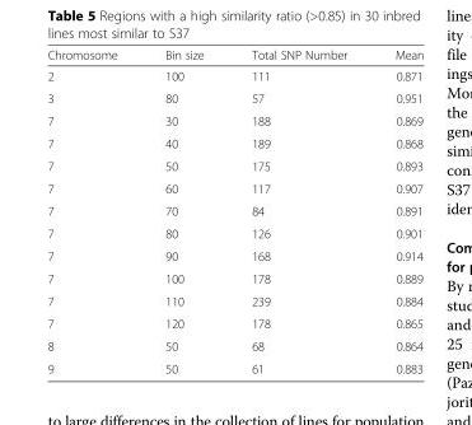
<table><thead><tr><td>Chromosome</td><td>Bin size</td><td>Total SNP Number</td><td>Mean</td></tr></thead><tbody><tr><td>2</td><td>100</td><td>111</td><td>0.871</td></tr><tr><td>3</td><td>80</td><td>57</td><td>0.951</td></tr><tr><td>7</td><td>30</td><td>188</td><td>0.869</td></tr><tr><td>7</td><td>40</td><td>189</td><td>0.868</td></tr><tr><td>7</td><td>50</td><td>175</td><td>0.893</td></tr><tr><td>7</td><td>60</td><td>117</td><td>0.907</td></tr><tr><td>7</td><td>70</td><td>84</td><td>0.891</td></tr><tr><td>7</td><td>80</td><td>126</td><td>0.901</td></tr><tr><td>7</td><td>90</td><td>168</td><td>0.914</td></tr><tr><td>7</td><td>100</td><td>178</td><td>0.889</td></tr><tr><td>7</td><td>110</td><td>239</td><td>0.884</td></tr><tr><td>7</td><td>120</td><td>178</td><td>0.865</td></tr><tr><td>8</td><td>50</td><td>68</td><td>0.864</td></tr><tr><td>9</td><td>50</td><td>61</td><td>0.883</td></tr></tbody></table>